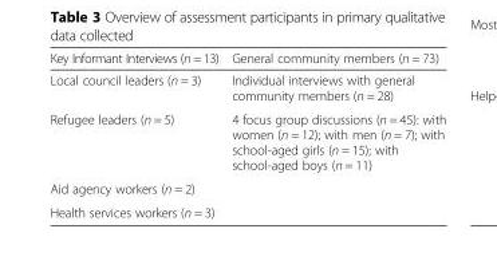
<table><thead><tr><td>Key Informant Interviews (n = 13)</td><td>General community members (n = 73)</td></tr></thead><tbody><tr><td>Local council leaders (n = 3)</td><td>Individual interviews with general community members (n = 28)</td></tr><tr><td>Refugee leaders (n = 5)</td><td>4 focus group discussions (n = 45): with women (n = 12); with men (n = 7); with school-aged girls (n = 15); with school-aged boys (n = 11)</td></tr><tr><td colspan="2">Aid agency workers (n = 2)</td></tr><tr><td>Health services workers (n = 3)</td><td></td></tr></tbody></table>